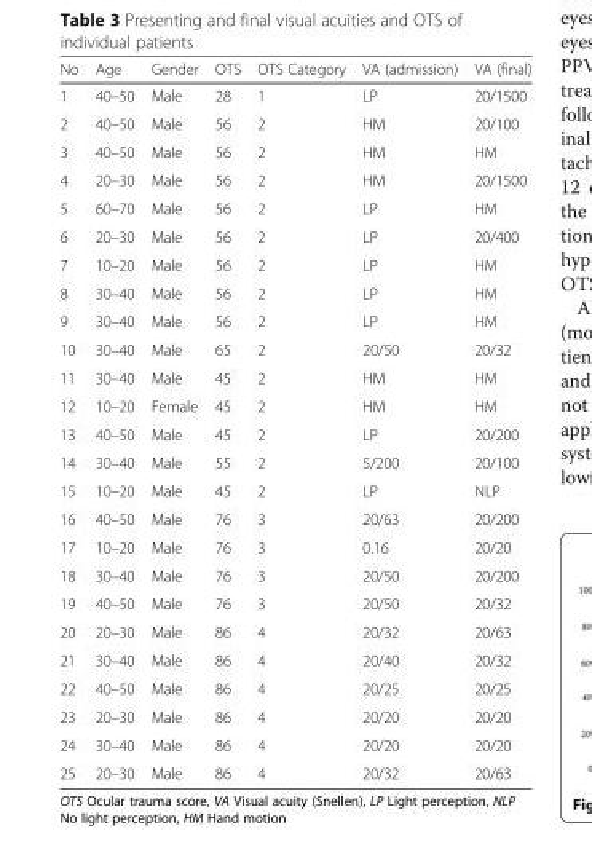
<table><thead><tr><td>No</td><td>Age</td><td>Gender</td><td>OTS</td><td>OTS Category</td><td>VA (admission)</td><td>VA (final)</td></tr></thead><tbody><tr><td>1</td><td>40–50</td><td>Male</td><td>28</td><td>1</td><td>LP</td><td>20/1500</td></tr><tr><td>2</td><td>40–50</td><td>Male</td><td>56</td><td>2</td><td>HM</td><td>20/100</td></tr><tr><td>3</td><td>40–50</td><td>Male</td><td>56</td><td>2</td><td>HM</td><td>HM</td></tr><tr><td>4</td><td>20–30</td><td>Male</td><td>56</td><td>2</td><td>HM</td><td>20/1500</td></tr><tr><td>5</td><td>60–70</td><td>Male</td><td>56</td><td>2</td><td>LP</td><td>HM</td></tr><tr><td>6</td><td>20–30</td><td>Male</td><td>56</td><td>2</td><td>LP</td><td>20/400</td></tr><tr><td>7</td><td>10–20</td><td>Male</td><td>56</td><td>2</td><td>LP</td><td>HM</td></tr><tr><td>8</td><td>30–40</td><td>Male</td><td>56</td><td>2</td><td>LP</td><td>HM</td></tr><tr><td>9</td><td>30–40</td><td>Male</td><td>56</td><td>2</td><td>LP</td><td>HM</td></tr><tr><td>10</td><td>30–40</td><td>Male</td><td>65</td><td>2</td><td>20/50</td><td>20/32</td></tr><tr><td>11</td><td>30–40</td><td>Male</td><td>45</td><td>2</td><td>HM</td><td>HM</td></tr><tr><td>12</td><td>10–20</td><td>Female</td><td>45</td><td>2</td><td>HM</td><td>HM</td></tr><tr><td>13</td><td>40–50</td><td>Male</td><td>45</td><td>2</td><td>LP</td><td>20/200</td></tr><tr><td>14</td><td>30–40</td><td>Male</td><td>55</td><td>2</td><td>5/200</td><td>20/100</td></tr><tr><td>15</td><td>10–20</td><td>Male</td><td>45</td><td>2</td><td>LP</td><td>NLP</td></tr><tr><td>16</td><td>40–50</td><td>Male</td><td>76</td><td>3</td><td>20/63</td><td>20/200</td></tr><tr><td>17</td><td>10–20</td><td>Male</td><td>76</td><td>3</td><td>0.16</td><td>20/20</td></tr><tr><td>18</td><td>30–40</td><td>Male</td><td>76</td><td>3</td><td>20/50</td><td>20/200</td></tr><tr><td>19</td><td>40–50</td><td>Male</td><td>76</td><td>3</td><td>20/50</td><td>20/32</td></tr><tr><td>20</td><td>20–30</td><td>Male</td><td>86</td><td>4</td><td>20/32</td><td>20/63</td></tr><tr><td>21</td><td>30–40</td><td>Male</td><td>86</td><td>4</td><td>20/40</td><td>20/32</td></tr><tr><td>22</td><td>40–50</td><td>Male</td><td>86</td><td>4</td><td>20/25</td><td>20/25</td></tr><tr><td>23</td><td>20–30</td><td>Male</td><td>86</td><td>4</td><td>20/20</td><td>20/20</td></tr><tr><td>24</td><td>30–40</td><td>Male</td><td>86</td><td>4</td><td>20/20</td><td>20/20</td></tr><tr><td>25</td><td>20–30</td><td>Male</td><td>86</td><td>4</td><td>20/32</td><td>20/63</td></tr></tbody></table>